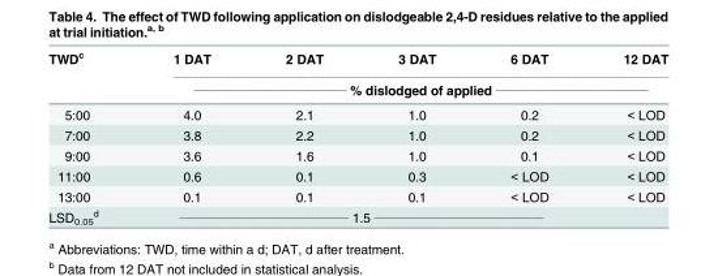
<table><thead><tr><td rowspan="2">TWD<sup>c</sup></td><td>1 DAT</td><td>2 DAT</td><td>3 DAT</td><td>6 DAT</td><td>12 DAT</td></tr><tr><td colspan="5">____________________________ % dislodged of applied ____________________________</td></tr></thead><tbody><tr><td>5:00</td><td>4.0</td><td>2.1</td><td>1.0</td><td>0.2</td><td>&lt; LOD</td></tr><tr><td>7:00</td><td>3.8</td><td>2.2</td><td>1.0</td><td>0.2</td><td>&lt; LOD</td></tr><tr><td>9:00</td><td>3.6</td><td>1.6</td><td>1.0</td><td>0.1</td><td>&lt; LOD</td></tr><tr><td>11:00</td><td>0.6</td><td>0.1</td><td>0.3</td><td>&lt; LOD</td><td>&lt; LOD</td></tr><tr><td>13:00</td><td>0.1</td><td>0.1</td><td>0.1</td><td>&lt; LOD</td><td>&lt; LOD</td></tr><tr><td>LSD<sub>0.05</sub> <sup>d</sup></td><td colspan="4">_______________________________ 1.5 _______________________________</td><td></td></tr></tbody></table>